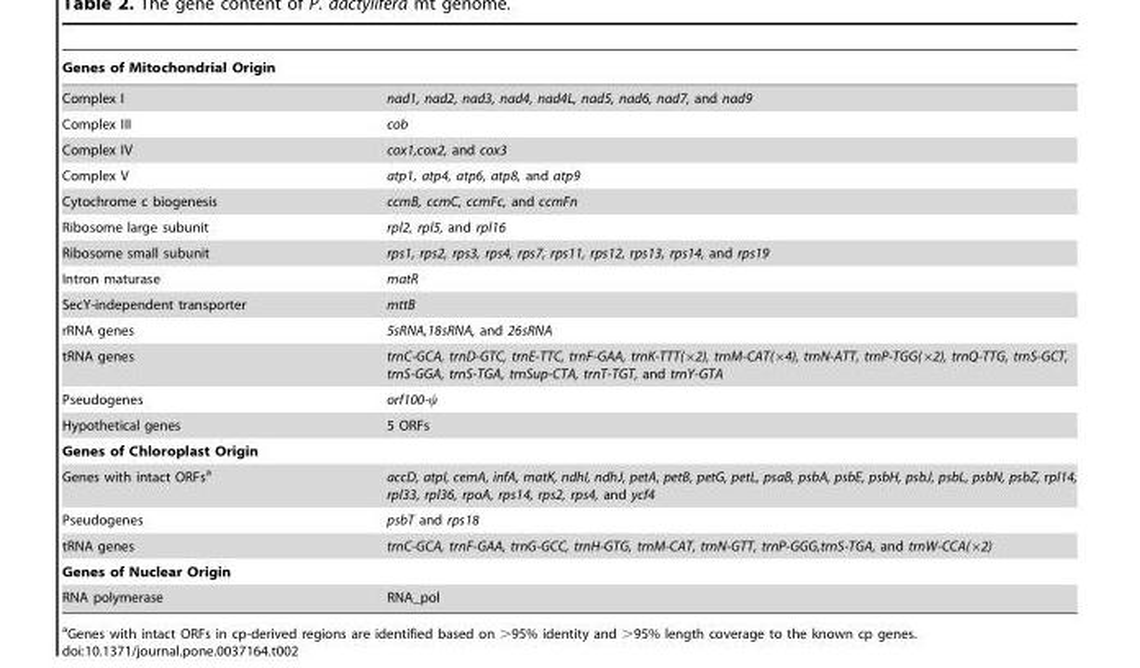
<table><thead><tr><td colspan="2">Genes of Mitochondrial Origin</td></tr><tr><td>Complex I</td><td>nad1, nad2, nad3, nad4, nad4L, nad5, nad6, nad7, and nad9</td></tr></thead><tbody><tr><td>Complex III</td><td>cob</td></tr><tr><td>Complex IV</td><td>cox1,cox2, and cox3</td></tr><tr><td>Complex V</td><td>atp1, atp4, atp6, atp8, and atp9</td></tr><tr><td>Cytochrome c biogenesis</td><td>ccmB, ccmC, ccmFc, and ccmFn</td></tr><tr><td>Ribosome large subunit</td><td>rpl2, rpl5, and rpl16</td></tr><tr><td>Ribosome small subunit</td><td>rps1, rps2, rps3, rps4, rps7, rps11, rps12, rps13, rps14, and rps19</td></tr><tr><td>Intron maturase</td><td>matR</td></tr><tr><td>SecY-independent transporter</td><td>mttB</td></tr><tr><td>rRNA genes</td><td>5sRNA,18sRNA, and 26sRNA</td></tr><tr><td>tRNA genes</td><td>trnC-GCA, trnD-GTC, trnE-TTC, trnF-GAA, trnK-TTT(×2), trnM-CAT(×4), trnN-ATT, trnP-TGG(×2), trnQ-TTG, trnS-GCT, trnS-GGA, trnS-TGA, trnSup-CTA, trnT-TGT, and trnY-GTA</td></tr><tr><td>Pseudogenes</td><td>orf100-ψ</td></tr><tr><td>Hypothetical genes</td><td>5 ORFs</td></tr><tr><td colspan="2">Genes of Chloroplast Origin</td></tr><tr><td>Genes with intact ORFs<sup>a</sup></td><td>accD, atpI, cemA, infA, matK, ndhI, ndhJ, petA, petB, petG, petL, psaB, psbA, psbE, psbH, psbJ, psbL, psbN, psbZ, rpl14, rpl33, rpl36, rpoA, rps14, rps2, rps4, and ycf4</td></tr><tr><td>Pseudogenes</td><td>psbT and rps18</td></tr><tr><td>tRNA genes</td><td>trnC-GCA, trnF-GAA, trnG-GCC, trnH-GTG, trnM-CAT, trnN-GTT, trnP-GGG,trnS-TGA, and trnW-CCA(×2)</td></tr><tr><td colspan="2">Genes of Nuclear Origin</td></tr><tr><td>RNA polymerase</td><td>RNA_pol</td></tr></tbody></table>